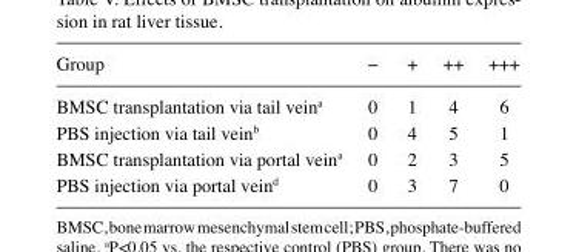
<table><thead><tr><td>Group</td><td>−</td><td>+</td><td>++</td><td>+++</td></tr></thead><tbody><tr><td>BMSC transplantation via tail vein<sup>a</sup></td><td>0</td><td>1</td><td>4</td><td>6</td></tr><tr><td>PBS injection via tail vein<sup>b</sup></td><td>0</td><td>4</td><td>5</td><td>1</td></tr><tr><td>BMSC transplantation via portal vein<sup>a</sup></td><td>0</td><td>2</td><td>3</td><td>5</td></tr><tr><td>PBS injection via portal vein<sup>d</sup></td><td>0</td><td>3</td><td>7</td><td>0</td></tr></tbody></table>